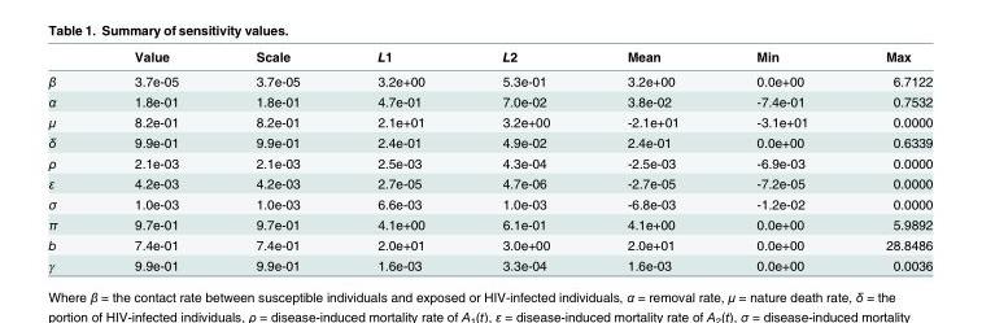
<table><thead><tr><td></td><td>Value</td><td>Scale</td><td>L1</td><td>L2</td><td>Mean</td><td>Min</td><td>Max</td></tr></thead><tbody><tr><td>β</td><td>3.7e-05</td><td>3.7e-05</td><td>3.2e+00</td><td>5.3e-01</td><td>3.2e+00</td><td>0.0e+00</td><td>6.7122</td></tr><tr><td>α</td><td>1.8e-01</td><td>1.8e-01</td><td>4.7e-01</td><td>7.0e-02</td><td>3.8e-02</td><td>-7.4e-01</td><td>0.7532</td></tr><tr><td>μ</td><td>8.2e-01</td><td>8.2e-01</td><td>2.1e+01</td><td>3.2e+00</td><td>-2.1e+01</td><td>-3.1e+01</td><td>0.0000</td></tr><tr><td>δ</td><td>9.9e-01</td><td>9.9e-01</td><td>2.4e-01</td><td>4.9e-02</td><td>2.4e-01</td><td>0.0e+00</td><td>0.6339</td></tr><tr><td>ρ</td><td>2.1e-03</td><td>2.1e-03</td><td>2.5e-03</td><td>4.3e-04</td><td>-2.5e-03</td><td>-6.9e-03</td><td>0.0000</td></tr><tr><td>ε</td><td>4.2e-03</td><td>4.2e-03</td><td>2.7e-05</td><td>4.7e-06</td><td>-2.7e-05</td><td>-7.2e-05</td><td>0.0000</td></tr><tr><td>σ</td><td>1.0e-03</td><td>1.0e-03</td><td>6.6e-03</td><td>1.0e-03</td><td>-6.8e-03</td><td>-1.2e-02</td><td>0.0000</td></tr><tr><td>π</td><td>9.7e-01</td><td>9.7e-01</td><td>4.1e+00</td><td>6.1e-01</td><td>4.1e+00</td><td>0.0e+00</td><td>5.9892</td></tr><tr><td>b</td><td>7.4e-01</td><td>7.4e-01</td><td>2.0e+01</td><td>3.0e+00</td><td>2.0e+01</td><td>0.0e+00</td><td>28.8486</td></tr><tr><td>γ</td><td>9.9e-01</td><td>9.9e-01</td><td>1.6e-03</td><td>3.3e-04</td><td>1.6e-03</td><td>0.0e+00</td><td>0.0036</td></tr></tbody></table>